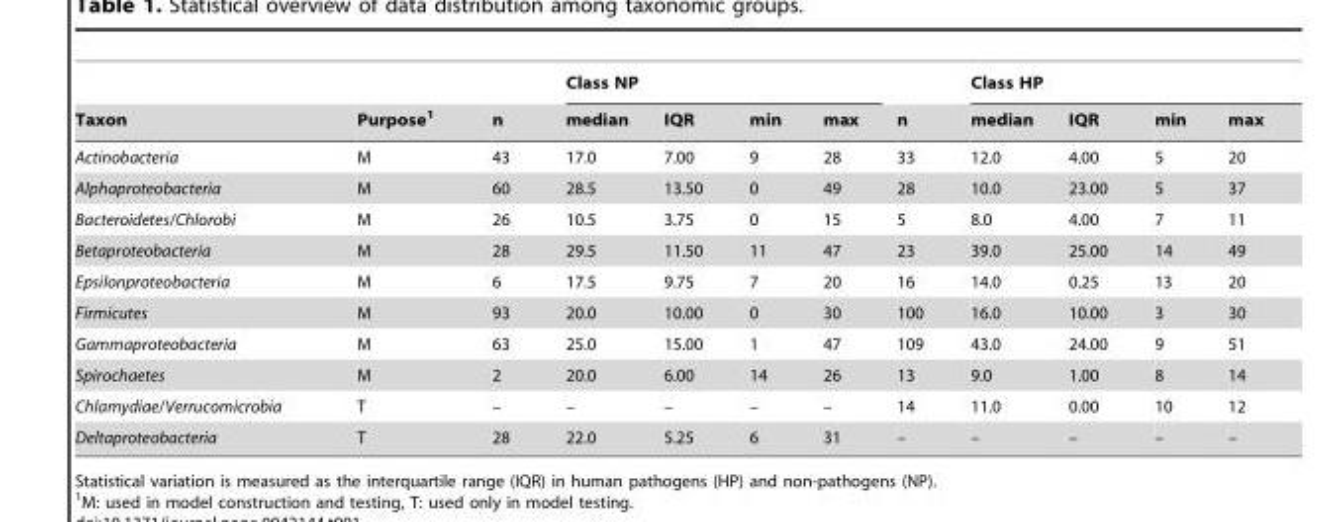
<table><thead><tr><td rowspan="2">Taxon</td><td rowspan="2">Purpose<sup>1</sup></td><td rowspan="2">n</td><td colspan="4">Class NP</td><td rowspan="2">n</td><td colspan="4">Class HP</td></tr><tr><td>median</td><td>IQR</td><td>min</td><td>max</td><td>median</td><td>IQR</td><td>min</td><td>max</td></tr></thead><tbody><tr><td>Actinobacteria</td><td>M</td><td>43</td><td>17.0</td><td>7.00</td><td>9</td><td>28</td><td>33</td><td>12.0</td><td>4.00</td><td>5</td><td>20</td></tr><tr><td>Alphaproteobacteria</td><td>M</td><td>60</td><td>28.5</td><td>13.50</td><td>0</td><td>49</td><td>28</td><td>10.0</td><td>23.00</td><td>5</td><td>37</td></tr><tr><td>Bacteroidetes/Chlorobi</td><td>M</td><td>26</td><td>10.5</td><td>3.75</td><td>0</td><td>15</td><td>5</td><td>8.0</td><td>4.00</td><td>7</td><td>11</td></tr><tr><td>Betaproteobacteria</td><td>M</td><td>28</td><td>29.5</td><td>11.50</td><td>11</td><td>47</td><td>23</td><td>39.0</td><td>25.00</td><td>14</td><td>49</td></tr><tr><td>Epsilonproteobacteria</td><td>M</td><td>6</td><td>17.5</td><td>9.75</td><td>7</td><td>20</td><td>16</td><td>14.0</td><td>0.25</td><td>13</td><td>20</td></tr><tr><td>Firmicutes</td><td>M</td><td>93</td><td>20.0</td><td>10.00</td><td>0</td><td>30</td><td>100</td><td>16.0</td><td>10.00</td><td>3</td><td>30</td></tr><tr><td>Gammaproteobacteria</td><td>M</td><td>63</td><td>25.0</td><td>15.00</td><td>1</td><td>47</td><td>109</td><td>43.0</td><td>24.00</td><td>9</td><td>51</td></tr><tr><td>Spirochaetes</td><td>M</td><td>2</td><td>20.0</td><td>6.00</td><td>14</td><td>26</td><td>13</td><td>9.0</td><td>1.00</td><td>8</td><td>14</td></tr><tr><td>Chlamydiae/Verrucomicrobia</td><td>T</td><td>–</td><td>–</td><td>–</td><td>–</td><td>–</td><td>14</td><td>11.0</td><td>0.00</td><td>10</td><td>12</td></tr><tr><td>Deltaproteobacteria</td><td>T</td><td>28</td><td>22.0</td><td>5.25</td><td>6</td><td>31</td><td>–</td><td>–</td><td>–</td><td>–</td><td>–</td></tr></tbody></table>